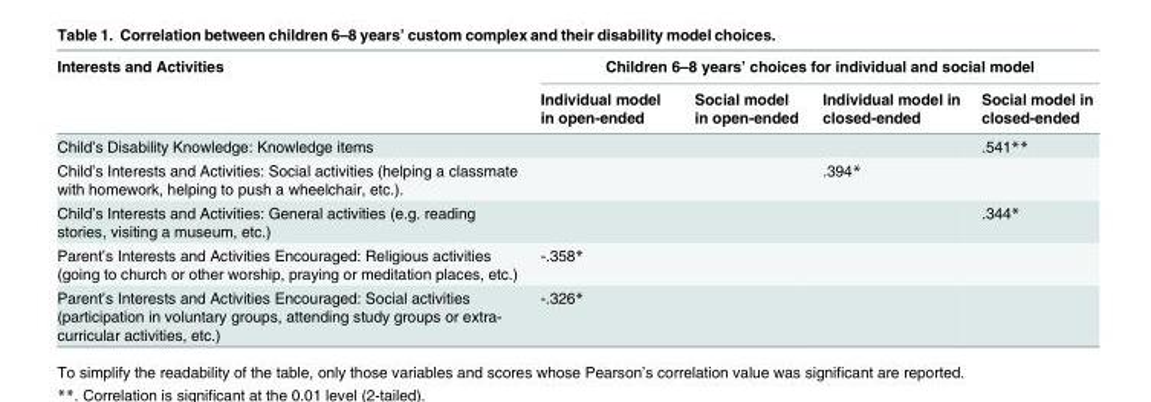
<table><thead><tr><td rowspan="2">Interests and Activities</td><td colspan="4">Children 6–8 years’ choices for individual and social model</td></tr><tr><td>Individual model in open-ended</td><td>Social model in open-ended</td><td>Individual model in closed-ended</td><td>Social model in closed-ended</td></tr></thead><tbody><tr><td>Child’s Disability Knowledge: Knowledge items</td><td></td><td></td><td></td><td>.541**</td></tr><tr><td>Child’s Interests and Activities: Social activities (helping a classmate with homework, helping to push a wheelchair, etc.).</td><td></td><td></td><td>.394*</td><td></td></tr><tr><td>Child’s Interests and Activities: General activities (e.g. reading stories, visiting a museum, etc.)</td><td></td><td></td><td></td><td>.344*</td></tr><tr><td>Parent’s Interests and Activities Encouraged: Religious activities (going to church or other worship, praying or meditation places, etc.)</td><td>-.358*</td><td></td><td></td><td></td></tr><tr><td>Parent’s Interests and Activities Encouraged: Social activities (participation in voluntary groups, attending study groups or extra- curricular activities, etc.)</td><td>-.326*</td><td></td><td></td><td></td></tr></tbody></table>